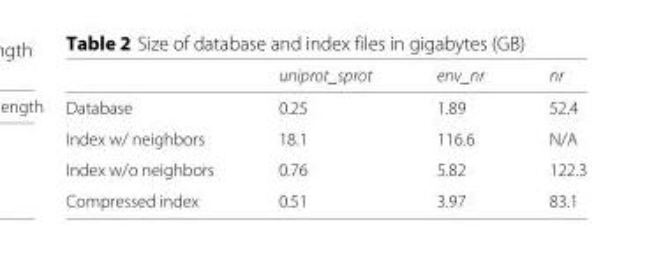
<table><thead><tr><td></td><td>uniprot_sprot</td><td>env_nr</td><td>nr</td></tr></thead><tbody><tr><td>Database</td><td>0.25</td><td>1.89</td><td>52.4</td></tr><tr><td>Index w/ neighbors</td><td>18.1</td><td>116.6</td><td>N/A</td></tr><tr><td>Index w/o neighbors</td><td>0.76</td><td>5.82</td><td>122.3</td></tr><tr><td>Compressed index</td><td>0.51</td><td>3.97</td><td>83.1</td></tr></tbody></table>